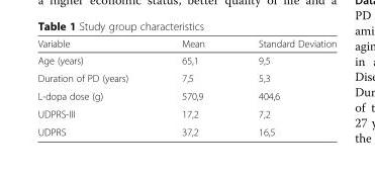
<table><thead><tr><td>Variable</td><td>Mean</td><td>Standard Deviation</td></tr></thead><tbody><tr><td>Age (years)</td><td>65,1</td><td>9,5</td></tr><tr><td>Duration of PD (years)</td><td>7,5</td><td>5,3</td></tr><tr><td>L-dopa dose (g)</td><td>570,9</td><td>404,6</td></tr><tr><td>UDPRS-III</td><td>17,2</td><td>7,2</td></tr><tr><td>UDPRS</td><td>37,2</td><td>16,5</td></tr></tbody></table>